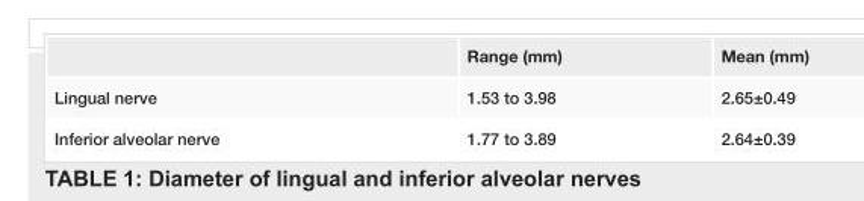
<table><thead><tr><td></td><td>Range (mm)</td><td>Mean (mm)</td></tr></thead><tbody><tr><td>Lingual nerve</td><td>1.53 to 3.98</td><td>2.65±0.49</td></tr><tr><td>Inferior alveolar nerve</td><td>1.77 to 3.89</td><td>2.64±0.39</td></tr></tbody></table>